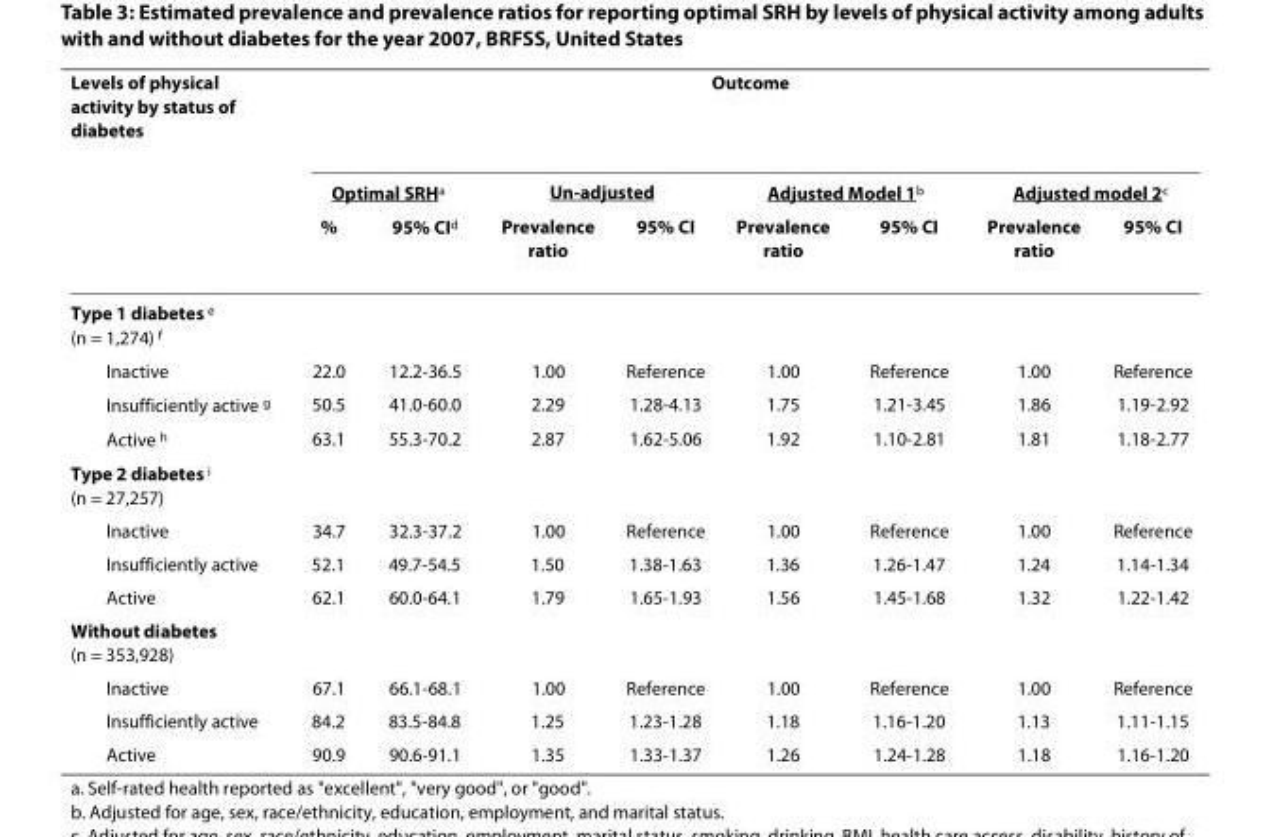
<table><thead><tr><td rowspan="3">Levels of physical activity by status of diabetes</td><td colspan="8">Outcome</td></tr><tr><td colspan="2">Optimal SRH<sup>a</sup></td><td colspan="2">Un-adjusted</td><td colspan="2">Adjusted Model 1<sup>b</sup></td><td colspan="2">Adjusted model 2<sup>c</sup></td></tr><tr><td>%</td><td>95% CI<sup>d</sup></td><td>Prevalence ratio</td><td>95% CI</td><td>Prevalence ratio</td><td>95% CI</td><td>Prevalence ratio</td><td>95% CI</td></tr></thead><tbody><tr><td colspan="9">Type 1 diabetes <sup>e</sup> (n = 1,274) <sup>f</sup></td></tr><tr><td>Inactive</td><td>22.0</td><td>12.2-36.5</td><td>1.00</td><td>Reference</td><td>1.00</td><td>Reference</td><td>1.00</td><td>Reference</td></tr><tr><td>Insufficiently active <sup>g</sup></td><td>50.5</td><td>41.0-60.0</td><td>2.29</td><td>1.28-4.13</td><td>1.75</td><td>1.21-3.45</td><td>1.86</td><td>1.19-2.92</td></tr><tr><td>Active <sup>h</sup></td><td>63.1</td><td>55.3-70.2</td><td>2.87</td><td>1.62-5.06</td><td>1.92</td><td>1.10-2.81</td><td>1.81</td><td>1.18-2.77</td></tr><tr><td colspan="9">Type 2 diabetes <sup>i</sup> (n = 27,257)</td></tr><tr><td>Inactive</td><td>34.7</td><td>32.3-37.2</td><td>1.00</td><td>Reference</td><td>1.00</td><td>Reference</td><td>1.00</td><td>Reference</td></tr><tr><td>Insufficiently active</td><td>52.1</td><td>49.7-54.5</td><td>1.50</td><td>1.38-1.63</td><td>1.36</td><td>1.26-1.47</td><td>1.24</td><td>1.14-1.34</td></tr><tr><td>Active</td><td>62.1</td><td>60.0-64.1</td><td>1.79</td><td>1.65-1.93</td><td>1.56</td><td>1.45-1.68</td><td>1.32</td><td>1.22-1.42</td></tr><tr><td colspan="9">Without diabetes (n = 353,928)</td></tr><tr><td>Inactive</td><td>67.1</td><td>66.1-68.1</td><td>1.00</td><td>Reference</td><td>1.00</td><td>Reference</td><td>1.00</td><td>Reference</td></tr><tr><td>Insufficiently active</td><td>84.2</td><td>83.5-84.8</td><td>1.25</td><td>1.23-1.28</td><td>1.18</td><td>1.16-1.20</td><td>1.13</td><td>1.11-1.15</td></tr><tr><td>Active</td><td>90.9</td><td>90.6-91.1</td><td>1.35</td><td>1.33-1.37</td><td>1.26</td><td>1.24-1.28</td><td>1.18</td><td>1.16-1.20</td></tr></tbody></table>